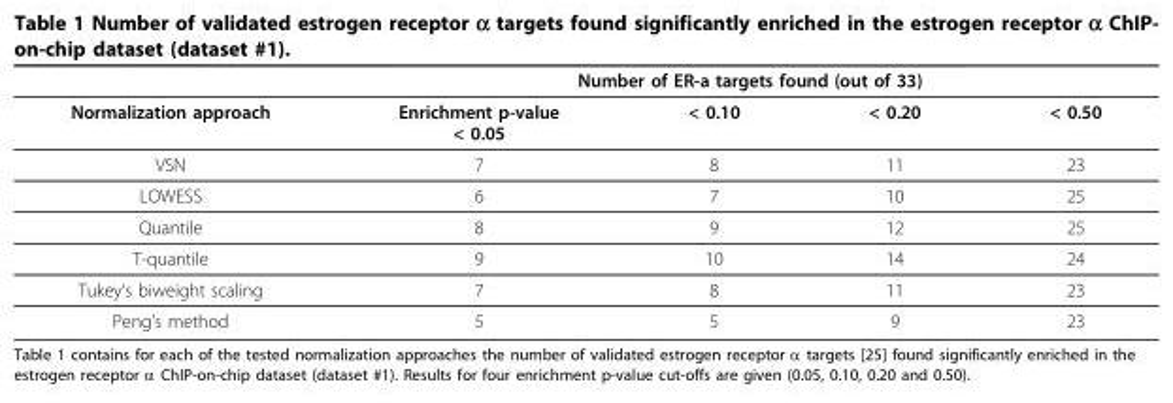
<table><thead><tr><td rowspan="2">Normalization approach</td><td colspan="4">Number of ER-a targets found (out of 33)</td></tr><tr><td>Enrichment p-value &lt; 0.05</td><td>&lt; 0.10</td><td>&lt; 0.20</td><td>&lt; 0.50</td></tr></thead><tbody><tr><td>VSN</td><td>7</td><td>8</td><td>11</td><td>23</td></tr><tr><td>LOWESS</td><td>6</td><td>7</td><td>10</td><td>25</td></tr><tr><td>Quantile</td><td>8</td><td>9</td><td>12</td><td>25</td></tr><tr><td>T-quantile</td><td>9</td><td>10</td><td>14</td><td>24</td></tr><tr><td>Tukey’s biweight scaling</td><td>7</td><td>8</td><td>11</td><td>23</td></tr><tr><td>Peng’s method</td><td>5</td><td>5</td><td>9</td><td>23</td></tr></tbody></table>